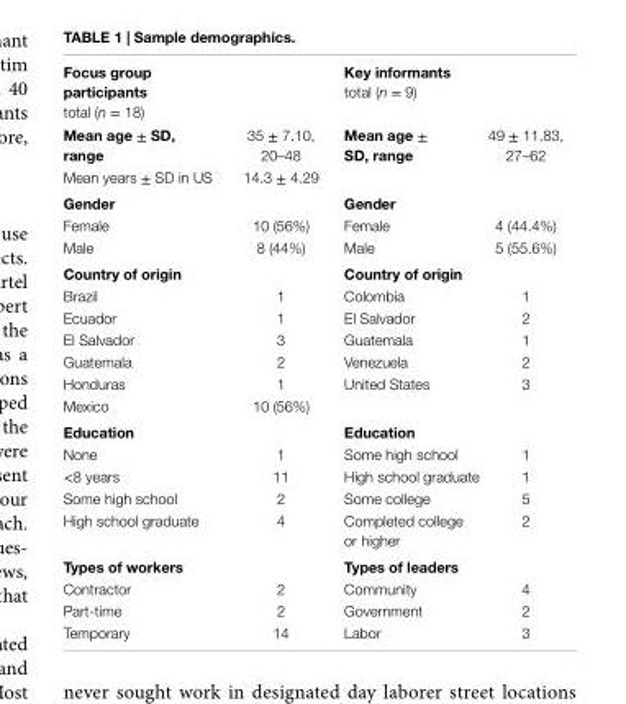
<table><tbody><tr><td>Focus group participants total (n = 18)</td><td></td><td>Key informants total (n = 9)</td><td></td></tr><tr><td>Mean age ± sD, range</td><td>35 ± 7.10, 20–48</td><td>Mean age ± sD, range</td><td>49 ± 11.83, 27–62</td></tr><tr><td>Mean years ± SD in US</td><td>14.3 ± 4.29</td><td></td><td></td></tr><tr><td>gender</td><td></td><td>gender</td><td></td></tr><tr><td>Female</td><td>10 (56%)</td><td>Female</td><td>4 (44.4%)</td></tr><tr><td>Male</td><td>8 (44%)</td><td>Male</td><td>5 (55.6%)</td></tr><tr><td>country of origin</td><td></td><td>country of origin</td><td></td></tr><tr><td>Brazil</td><td>1</td><td>Colombia</td><td>1</td></tr><tr><td>Ecuador</td><td>1</td><td>El Salvador</td><td>2</td></tr><tr><td>El Salvador</td><td>3</td><td>Guatemala</td><td>1</td></tr><tr><td>Guatemala</td><td>2</td><td>Venezuela</td><td>2</td></tr><tr><td>Honduras</td><td>1</td><td>United States</td><td>3</td></tr><tr><td>Mexico</td><td>10 (56%)</td><td></td><td></td></tr><tr><td>education</td><td></td><td>education</td><td></td></tr><tr><td>None</td><td>1</td><td>Some high school</td><td>1</td></tr><tr><td>&lt;8 years</td><td>11</td><td>High school graduate</td><td>1</td></tr><tr><td>Some high school</td><td>2</td><td>Some college</td><td>5</td></tr><tr><td>High school graduate</td><td>4</td><td>Completed college or higher</td><td>2</td></tr><tr><td>Types of workers</td><td></td><td>Types of leaders</td><td></td></tr><tr><td>Contractor</td><td>2</td><td>Community</td><td>4</td></tr><tr><td>Part-time</td><td>2</td><td>Government</td><td>2</td></tr><tr><td>Temporary</td><td>14</td><td>Labor</td><td>3</td></tr></tbody></table>